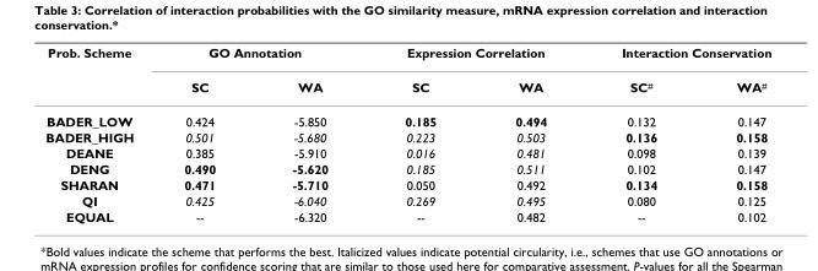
<table><thead><tr><td rowspan="2">Prob. Scheme</td><td colspan="2">GO Annotation</td><td colspan="2">Expression Correlation</td><td colspan="2">Interaction Conservation</td></tr><tr><td>SC</td><td>WA</td><td>SC</td><td>WA</td><td>SC#</td><td>WA#</td></tr></thead><tbody><tr><td>BADER_LOW</td><td>0.424</td><td>-5.850</td><td>0.185</td><td>0.494</td><td>0.132</td><td>0.147</td></tr><tr><td>BADER_HIGH</td><td>0.501</td><td>-5.680</td><td>0.223</td><td>0.503</td><td>0.136</td><td>0.158</td></tr><tr><td>DEANE</td><td>0.385</td><td>-5.910</td><td>0.016</td><td>0.481</td><td>0.098</td><td>0.139</td></tr><tr><td>DENG</td><td>0.490</td><td>-5.620</td><td>0.185</td><td>0.511</td><td>0.102</td><td>0.147</td></tr><tr><td>SHARAN</td><td>0.471</td><td>-5.710</td><td>0.050</td><td>0.492</td><td>0.134</td><td>0.158</td></tr><tr><td>QI</td><td>0.425</td><td>-6.040</td><td>0.269</td><td>0.495</td><td>0.080</td><td>0.125</td></tr><tr><td>EQUAL</td><td>--</td><td>-6.320</td><td>--</td><td>0.482</td><td>--</td><td>0.102</td></tr></tbody></table>